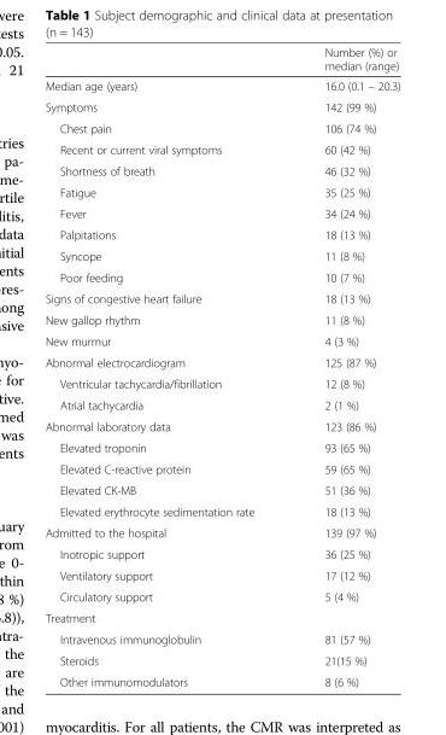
<table><thead><tr><td></td><td>Number (%) or median (range)</td></tr></thead><tbody><tr><td>Median age (years)</td><td>16.0 (0.1 – 20.3)</td></tr><tr><td>Symptoms</td><td>142 (99 %)</td></tr><tr><td>Chest pain</td><td>106 (74 %)</td></tr><tr><td>Recent or current viral symptoms</td><td>60 (42 %)</td></tr><tr><td>Shortness of breath</td><td>46 (32 %)</td></tr><tr><td>Fatigue</td><td>35 (25 %)</td></tr><tr><td>Fever</td><td>34 (24 %)</td></tr><tr><td>Palpitations</td><td>18 (13 %)</td></tr><tr><td>Syncope</td><td>11 (8 %)</td></tr><tr><td>Poor feeding</td><td>10 (7 %)</td></tr><tr><td>Signs of congestive heart failure</td><td>18 (13 %)</td></tr><tr><td>New gallop rhythm</td><td>11 (8 %)</td></tr><tr><td>New murmur</td><td>4 (3 %)</td></tr><tr><td>Abnormal electrocardiogram</td><td>125 (87 %)</td></tr><tr><td>Ventricular tachycardia/fibrillation</td><td>12 (8 %)</td></tr><tr><td>Atrial tachycardia</td><td>2 (1 %)</td></tr><tr><td>Abnormal laboratory data</td><td>123 (86 %)</td></tr><tr><td>Elevated troponin</td><td>93 (65 %)</td></tr><tr><td>Elevated C-reactive protein</td><td>59 (65 %)</td></tr><tr><td>Elevated CK-MB</td><td>51 (36 %)</td></tr><tr><td>Elevated erythrocyte sedimentation rate</td><td>18 (13 %)</td></tr><tr><td>Admitted to the hospital</td><td>139 (97 %)</td></tr><tr><td>Inotropic support</td><td>36 (25 %)</td></tr><tr><td>Ventilatory support</td><td>17 (12 %)</td></tr><tr><td>Circulatory support</td><td>5 (4 %)</td></tr><tr><td colspan="2">Treatment</td></tr><tr><td>Intravenous immunoglobulin</td><td>81 (57 %)</td></tr><tr><td>Steroids</td><td>21(15 %)</td></tr><tr><td>Other immunomodulators</td><td>8 (6 %)</td></tr></tbody></table>